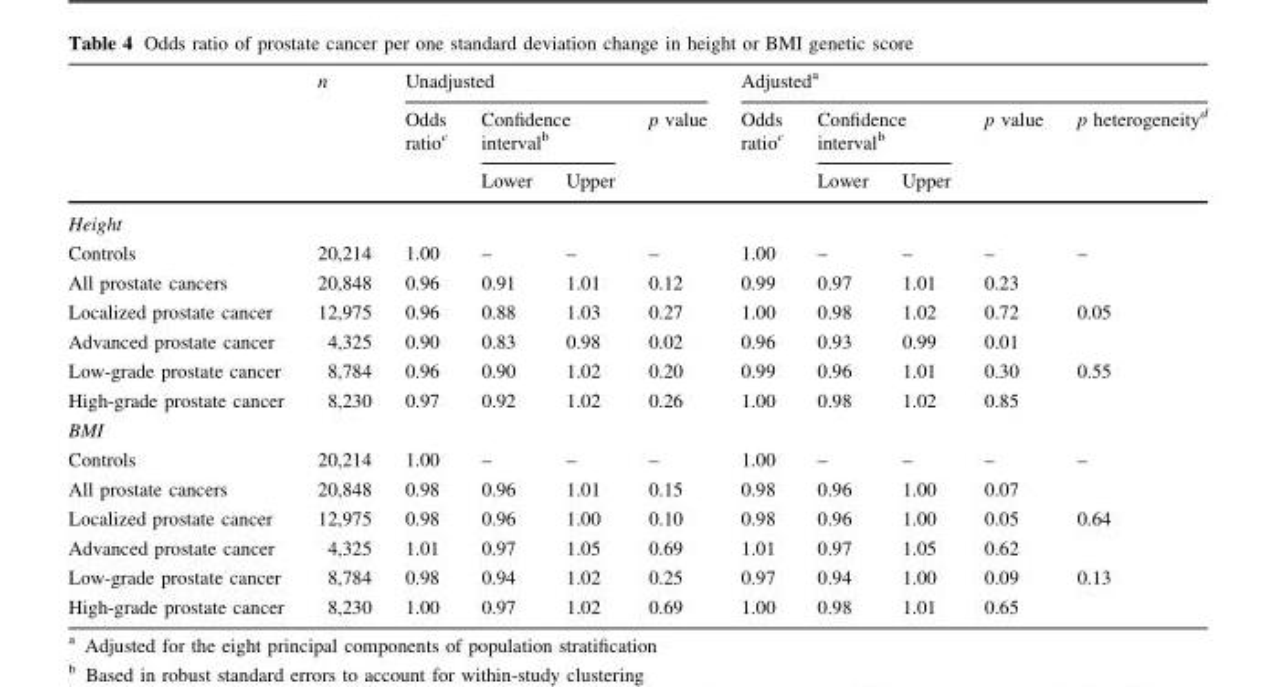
<table><thead><tr><td rowspan="3"></td><td rowspan="3">n</td><td colspan="4">Unadjusted</td><td colspan="5">Adjusted<sup>a</sup></td></tr><tr><td rowspan="2">Odds ratio<sup>c</sup></td><td colspan="2">Confidence interval<sup>b</sup></td><td rowspan="2">p value</td><td rowspan="2">Odds ratio<sup>c</sup></td><td colspan="2">Confidence interval<sup>b</sup></td><td rowspan="2">p value</td><td rowspan="2">p heterogeneity<sup>d</sup></td></tr><tr><td>Lower</td><td>Upper</td><td>Lower</td><td>Upper</td></tr></thead><tbody><tr><td colspan="11">Height</td></tr><tr><td>Controls</td><td>20,214</td><td>1.00</td><td>–</td><td>–</td><td>–</td><td>1.00</td><td>–</td><td>–</td><td>–</td><td>–</td></tr><tr><td>All prostate cancers</td><td>20,848</td><td>0.96</td><td>0.91</td><td>1.01</td><td>0.12</td><td>0.99</td><td>0.97</td><td>1.01</td><td>0.23</td><td></td></tr><tr><td>Localized prostate cancer</td><td>12,975</td><td>0.96</td><td>0.88</td><td>1.03</td><td>0.27</td><td>1.00</td><td>0.98</td><td>1.02</td><td>0.72</td><td>0.05</td></tr><tr><td>Advanced prostate cancer</td><td>4,325</td><td>0.90</td><td>0.83</td><td>0.98</td><td>0.02</td><td>0.96</td><td>0.93</td><td>0.99</td><td>0.01</td><td></td></tr><tr><td>Low-grade prostate cancer</td><td>8,784</td><td>0.96</td><td>0.90</td><td>1.02</td><td>0.20</td><td>0.99</td><td>0.96</td><td>1.01</td><td>0.30</td><td>0.55</td></tr><tr><td>High-grade prostate cancer</td><td>8,230</td><td>0.97</td><td>0.92</td><td>1.02</td><td>0.26</td><td>1.00</td><td>0.98</td><td>1.02</td><td>0.85</td><td></td></tr><tr><td colspan="11">BMI</td></tr><tr><td>Controls</td><td>20,214</td><td>1.00</td><td>–</td><td>–</td><td>–</td><td>1.00</td><td>–</td><td>–</td><td>–</td><td>–</td></tr><tr><td>All prostate cancers</td><td>20,848</td><td>0.98</td><td>0.96</td><td>1.01</td><td>0.15</td><td>0.98</td><td>0.96</td><td>1.00</td><td>0.07</td><td></td></tr><tr><td>Localized prostate cancer</td><td>12,975</td><td>0.98</td><td>0.96</td><td>1.00</td><td>0.10</td><td>0.98</td><td>0.96</td><td>1.00</td><td>0.05</td><td>0.64</td></tr><tr><td>Advanced prostate cancer</td><td>4,325</td><td>1.01</td><td>0.97</td><td>1.05</td><td>0.69</td><td>1.01</td><td>0.97</td><td>1.05</td><td>0.62</td><td></td></tr><tr><td>Low-grade prostate cancer</td><td>8,784</td><td>0.98</td><td>0.94</td><td>1.02</td><td>0.25</td><td>0.97</td><td>0.94</td><td>1.00</td><td>0.09</td><td>0.13</td></tr><tr><td>High-grade prostate cancer</td><td>8,230</td><td>1.00</td><td>0.97</td><td>1.02</td><td>0.69</td><td>1.00</td><td>0.98</td><td>1.01</td><td>0.65</td><td></td></tr></tbody></table>